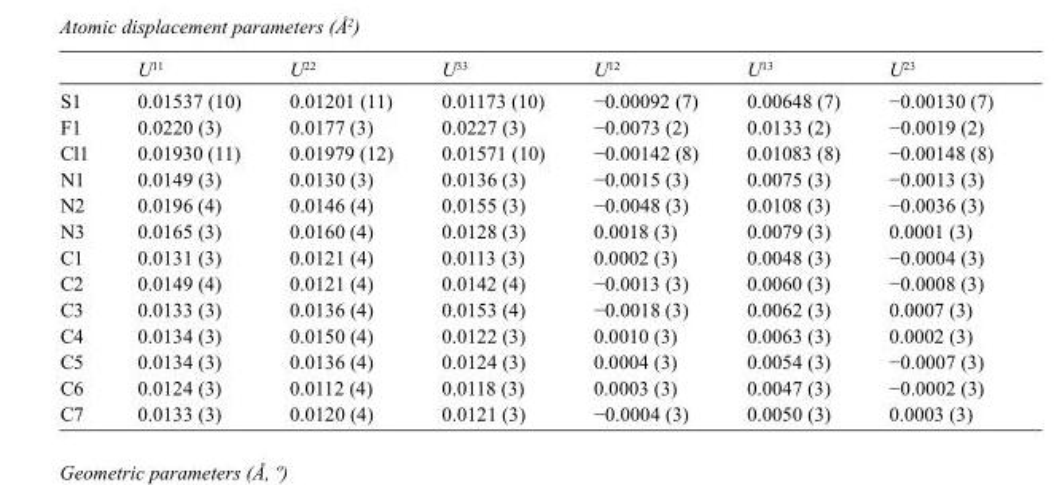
<table><thead><tr><td></td><td>U<sup>11</sup></td><td>U<sup>22</sup></td><td>U<sup>33</sup></td><td>U<sup>12</sup></td><td>U<sup>13</sup></td><td>U<sup>23</sup></td></tr></thead><tbody><tr><td>S1</td><td>0.01537 (10)</td><td>0.01201 (11)</td><td>0.01173 (10)</td><td>−0.00092 (7)</td><td>0.00648 (7)</td><td>−0.00130 (7)</td></tr><tr><td>F1</td><td>0.0220 (3)</td><td>0.0177 (3)</td><td>0.0227 (3)</td><td>−0.0073 (2)</td><td>0.0133 (2)</td><td>−0.0019 (2)</td></tr><tr><td>Cl1</td><td>0.01930 (11)</td><td>0.01979 (12)</td><td>0.01571 (10)</td><td>−0.00142 (8)</td><td>0.01083 (8)</td><td>−0.00148 (8)</td></tr><tr><td>N1</td><td>0.0149 (3)</td><td>0.0130 (3)</td><td>0.0136 (3)</td><td>−0.0015 (3)</td><td>0.0075 (3)</td><td>−0.0013 (3)</td></tr><tr><td>N2</td><td>0.0196 (4)</td><td>0.0146 (4)</td><td>0.0155 (3)</td><td>−0.0048 (3)</td><td>0.0108 (3)</td><td>−0.0036 (3)</td></tr><tr><td>N3</td><td>0.0165 (3)</td><td>0.0160 (4)</td><td>0.0128 (3)</td><td>0.0018 (3)</td><td>0.0079 (3)</td><td>0.0001 (3)</td></tr><tr><td>C1</td><td>0.0131 (3)</td><td>0.0121 (4)</td><td>0.0113 (3)</td><td>0.0002 (3)</td><td>0.0048 (3)</td><td>−0.0004 (3)</td></tr><tr><td>C2</td><td>0.0149 (4)</td><td>0.0121 (4)</td><td>0.0142 (4)</td><td>−0.0013 (3)</td><td>0.0060 (3)</td><td>−0.0008 (3)</td></tr><tr><td>C3</td><td>0.0133 (3)</td><td>0.0136 (4)</td><td>0.0153 (4)</td><td>−0.0018 (3)</td><td>0.0062 (3)</td><td>0.0007 (3)</td></tr><tr><td>C4</td><td>0.0134 (3)</td><td>0.0150 (4)</td><td>0.0122 (3)</td><td>0.0010 (3)</td><td>0.0063 (3)</td><td>0.0002 (3)</td></tr><tr><td>C5</td><td>0.0134 (3)</td><td>0.0136 (4)</td><td>0.0124 (3)</td><td>0.0004 (3)</td><td>0.0054 (3)</td><td>−0.0007 (3)</td></tr><tr><td>C6</td><td>0.0124 (3)</td><td>0.0112 (4)</td><td>0.0118 (3)</td><td>0.0003 (3)</td><td>0.0047 (3)</td><td>−0.0002 (3)</td></tr><tr><td>C7</td><td>0.0133 (3)</td><td>0.0120 (4)</td><td>0.0121 (3)</td><td>−0.0004 (3)</td><td>0.0050 (3)</td><td>0.0003 (3)</td></tr></tbody></table>